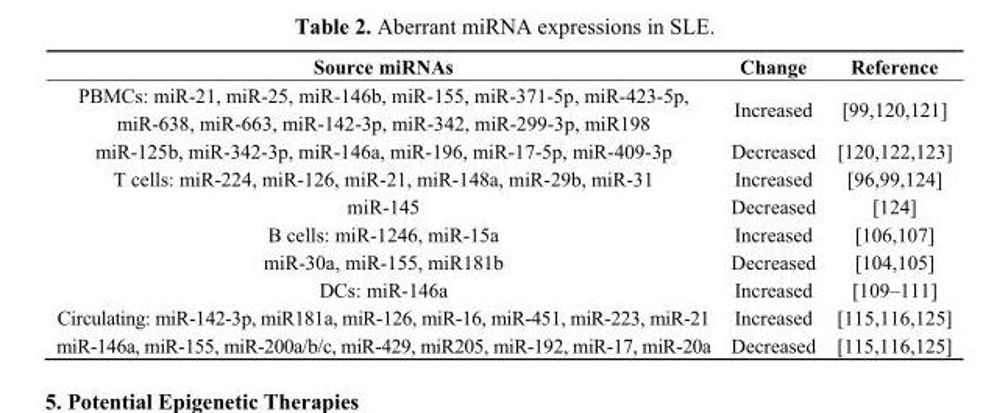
<table><thead><tr><td>Source miRNAs</td><td>Change</td><td>Reference</td></tr></thead><tbody><tr><td>PBMCs: miR-21, miR-25, miR-146b, miR-155, miR-371-5p, miR-423-5p, miR-638, miR-663, miR-142-3p, miR-342, miR-299-3p, miR198</td><td>Increased</td><td>[99,120,121]</td></tr><tr><td>miR-125b, miR-342-3p, miR-146a, miR-196, miR-17-5p, miR-409-3p</td><td>Decreased</td><td>[120,122,123]</td></tr><tr><td>T cells: miR-224, miR-126, miR-21, miR-148a, miR-29b, miR-31</td><td>Increased</td><td>[96,99,124]</td></tr><tr><td>miR-145</td><td>Decreased</td><td>[124]</td></tr><tr><td>B cells: miR-1246, miR-15a</td><td>Increased</td><td>[106,107]</td></tr><tr><td>miR-30a, miR-155, miR181b</td><td>Decreased</td><td>[104,105]</td></tr><tr><td>DCs: miR-146a</td><td>Increased</td><td>[109–111]</td></tr><tr><td>Circulating: miR-142-3p, miR181a, miR-126, miR-16, miR-451, miR-223, miR-21</td><td>Increased</td><td>[115,116,125]</td></tr><tr><td>miR-146a, miR-155, miR-200a/b/c, miR-429, miR205, miR-192, miR-17, miR-20a</td><td>Decreased</td><td>[115,116,125]</td></tr></tbody></table>